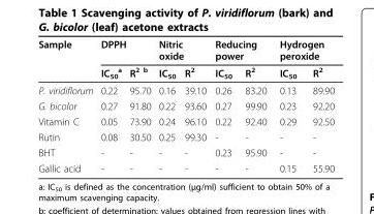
<table><thead><tr><td rowspan="2">Sample</td><td colspan="2">DPPH</td><td colspan="2">Nitric oxide</td><td colspan="2">Reducing power</td><td colspan="2">Hydrogen peroxide</td></tr><tr><td>IC<sub>50</sub> <sup>a</sup></td><td>R<sup>2 b</sup></td><td>IC<sub>50</sub></td><td>R<sup>2</sup></td><td>IC<sub>50</sub></td><td>R<sup>2</sup></td><td>IC<sub>50</sub></td><td>R<sup>2</sup></td></tr></thead><tbody><tr><td>P. viridiflorum</td><td>0.22</td><td>95.70</td><td>0.16</td><td>39.10</td><td>0.26</td><td>83.20</td><td>0.13</td><td>89.90</td></tr><tr><td>G. bicolor</td><td>0.27</td><td>91.80</td><td>0.22</td><td>93.60</td><td>0.27</td><td>99.90</td><td>0.23</td><td>92.20</td></tr><tr><td>Vitamin C</td><td>0.05</td><td>73.90</td><td>0.24</td><td>96.10</td><td>0.22</td><td>92.40</td><td>0.29</td><td>92.50</td></tr><tr><td>Rutin</td><td>0.08</td><td>30.50</td><td>0.25</td><td>99.30</td><td>-</td><td>-</td><td>-</td><td>-</td></tr><tr><td>BHT</td><td>-</td><td>-</td><td>-</td><td>-</td><td>0.23</td><td>95.90</td><td>-</td><td>-</td></tr><tr><td>Gallic acid</td><td>-</td><td>-</td><td>-</td><td>-</td><td>-</td><td>-</td><td>0.15</td><td>55.90</td></tr></tbody></table>